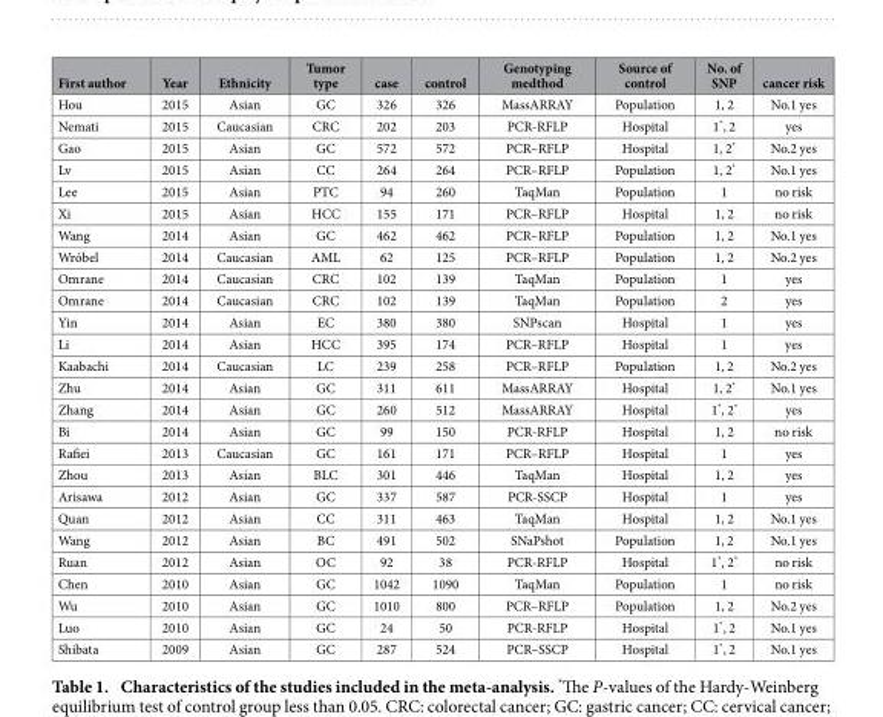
<table><thead><tr><td>First author</td><td>Year</td><td>Ethnicity</td><td>Tumor type</td><td>case</td><td>control</td><td>Genotyping medthod</td><td>Source of control</td><td>No. of SNP</td><td>cancer risk</td></tr></thead><tbody><tr><td>Hou</td><td>2015</td><td>Asian</td><td>GC</td><td>326</td><td>326</td><td>MassARRAY</td><td>Population</td><td>1, 2</td><td>No.1 yes</td></tr><tr><td>Nemati</td><td>2015</td><td>Caucasian</td><td>CRC</td><td>202</td><td>203</td><td>PCR-RFLP</td><td>Hospital</td><td>1*, 2</td><td>yes</td></tr><tr><td>Gao</td><td>2015</td><td>Asian</td><td>GC</td><td>572</td><td>572</td><td>PCR–RFLP</td><td>Hospital</td><td>1, 2*</td><td>No.2 yes</td></tr><tr><td>Lv</td><td>2015</td><td>Asian</td><td>CC</td><td>264</td><td>264</td><td>PCR–RFLP</td><td>Population</td><td>1, 2*</td><td>No.1 yes</td></tr><tr><td>Lee</td><td>2015</td><td>Asian</td><td>PTC</td><td>94</td><td>260</td><td>TaqMan</td><td>Population</td><td>1</td><td>no risk</td></tr><tr><td>Xi</td><td>2015</td><td>Asian</td><td>HCC</td><td>155</td><td>171</td><td>PCR–RFLP</td><td>Hospital</td><td>1, 2</td><td>no risk</td></tr><tr><td>Wang</td><td>2014</td><td>Asian</td><td>GC</td><td>462</td><td>462</td><td>PCR–RFLP</td><td>Population</td><td>1, 2</td><td>No.1 yes</td></tr><tr><td>Wróbel</td><td>2014</td><td>Caucasian</td><td>AML</td><td>62</td><td>125</td><td>PCR–RFLP</td><td>Population</td><td>1, 2</td><td>No.2 yes</td></tr><tr><td>Omrane</td><td>2014</td><td>Caucasian</td><td>CRC</td><td>102</td><td>139</td><td>TaqMan</td><td>Population</td><td>1</td><td>yes</td></tr><tr><td>Omrane</td><td>2014</td><td>Caucasian</td><td>CRC</td><td>102</td><td>139</td><td>TaqMan</td><td>Population</td><td>2</td><td>yes</td></tr><tr><td>Yin</td><td>2014</td><td>Asian</td><td>EC</td><td>380</td><td>380</td><td>SNPscan</td><td>Hospital</td><td>1</td><td>yes</td></tr><tr><td>Li</td><td>2014</td><td>Asian</td><td>HCC</td><td>395</td><td>174</td><td>PCR–RFLP</td><td>Hospital</td><td>1</td><td>yes</td></tr><tr><td>Kaabachi</td><td>2014</td><td>Caucasian</td><td>LC</td><td>239</td><td>258</td><td>PCR–RFLP</td><td>Population</td><td>1, 2</td><td>No.2 yes</td></tr><tr><td>Zhu</td><td>2014</td><td>Asian</td><td>GC</td><td>311</td><td>611</td><td>MassARRAY</td><td>Hospital</td><td>1, 2*</td><td>No.1 yes</td></tr><tr><td>Zhang</td><td>2014</td><td>Asian</td><td>GC</td><td>260</td><td>512</td><td>MassARRAY</td><td>Hospital</td><td>1*, 2*</td><td>yes</td></tr><tr><td>Bi</td><td>2014</td><td>Asian</td><td>GC</td><td>99</td><td>150</td><td>PCR-RFLP</td><td>Hospital</td><td>1, 2</td><td>no risk</td></tr><tr><td>Rafiei</td><td>2013</td><td>Caucasian</td><td>GC</td><td>161</td><td>171</td><td>PCR–RFLP</td><td>Hospital</td><td>1</td><td>yes</td></tr><tr><td>Zhou</td><td>2013</td><td>Asian</td><td>BLC</td><td>301</td><td>446</td><td>TaqMan</td><td>Hospital</td><td>1, 2</td><td>yes</td></tr><tr><td>Arisawa</td><td>2012</td><td>Asian</td><td>GC</td><td>337</td><td>587</td><td>PCR-SSCP</td><td>Hospital</td><td>1</td><td>yes</td></tr><tr><td>Quan</td><td>2012</td><td>Asian</td><td>CC</td><td>311</td><td>463</td><td>TaqMan</td><td>Hospital</td><td>1, 2</td><td>No.1 yes</td></tr><tr><td>Wang</td><td>2012</td><td>Asian</td><td>BC</td><td>491</td><td>502</td><td>SNaPshot</td><td>Population</td><td>1, 2</td><td>No.1 yes</td></tr><tr><td>Ruan</td><td>2012</td><td>Asian</td><td>OC</td><td>92</td><td>38</td><td>PCR-RFLP</td><td>Hospital</td><td>1*, 2*</td><td>no risk</td></tr><tr><td>Chen</td><td>2010</td><td>Asian</td><td>GC</td><td>1042</td><td>1090</td><td>TaqMan</td><td>Population</td><td>1</td><td>no risk</td></tr><tr><td>Wu</td><td>2010</td><td>Asian</td><td>GC</td><td>1010</td><td>800</td><td>PCR–RFLP</td><td>Population</td><td>1, 2</td><td>No.2 yes</td></tr><tr><td>Luo</td><td>2010</td><td>Asian</td><td>GC</td><td>24</td><td>50</td><td>PCR-RFLP</td><td>Hospital</td><td>1*, 2</td><td>No.1 yes</td></tr><tr><td>Shibata</td><td>2009</td><td>Asian</td><td>GC</td><td>287</td><td>524</td><td>PCR–SSCP</td><td>Hospital</td><td>1*, 2</td><td>No.1 yes</td></tr></tbody></table>